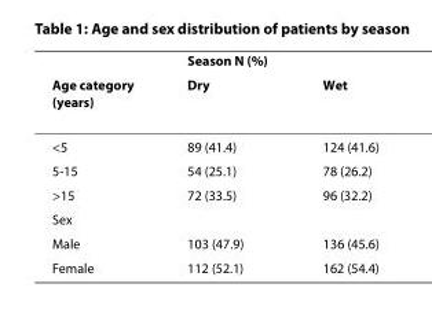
<table><thead><tr><td rowspan="2">Age category (years)</td><td colspan="2">Season N (%)</td></tr><tr><td>Dry</td><td>Wet</td></tr></thead><tbody><tr><td>&lt;5</td><td>89 (41.4)</td><td>124 (41.6)</td></tr><tr><td>5-15</td><td>54 (25.1)</td><td>78 (26.2)</td></tr><tr><td>&gt;15</td><td>72 (33.5)</td><td>96 (32.2)</td></tr><tr><td colspan="3">Sex</td></tr><tr><td>Male</td><td>103 (47.9)</td><td>136 (45.6)</td></tr><tr><td>Female</td><td>112 (52.1)</td><td>162 (54.4)</td></tr></tbody></table>